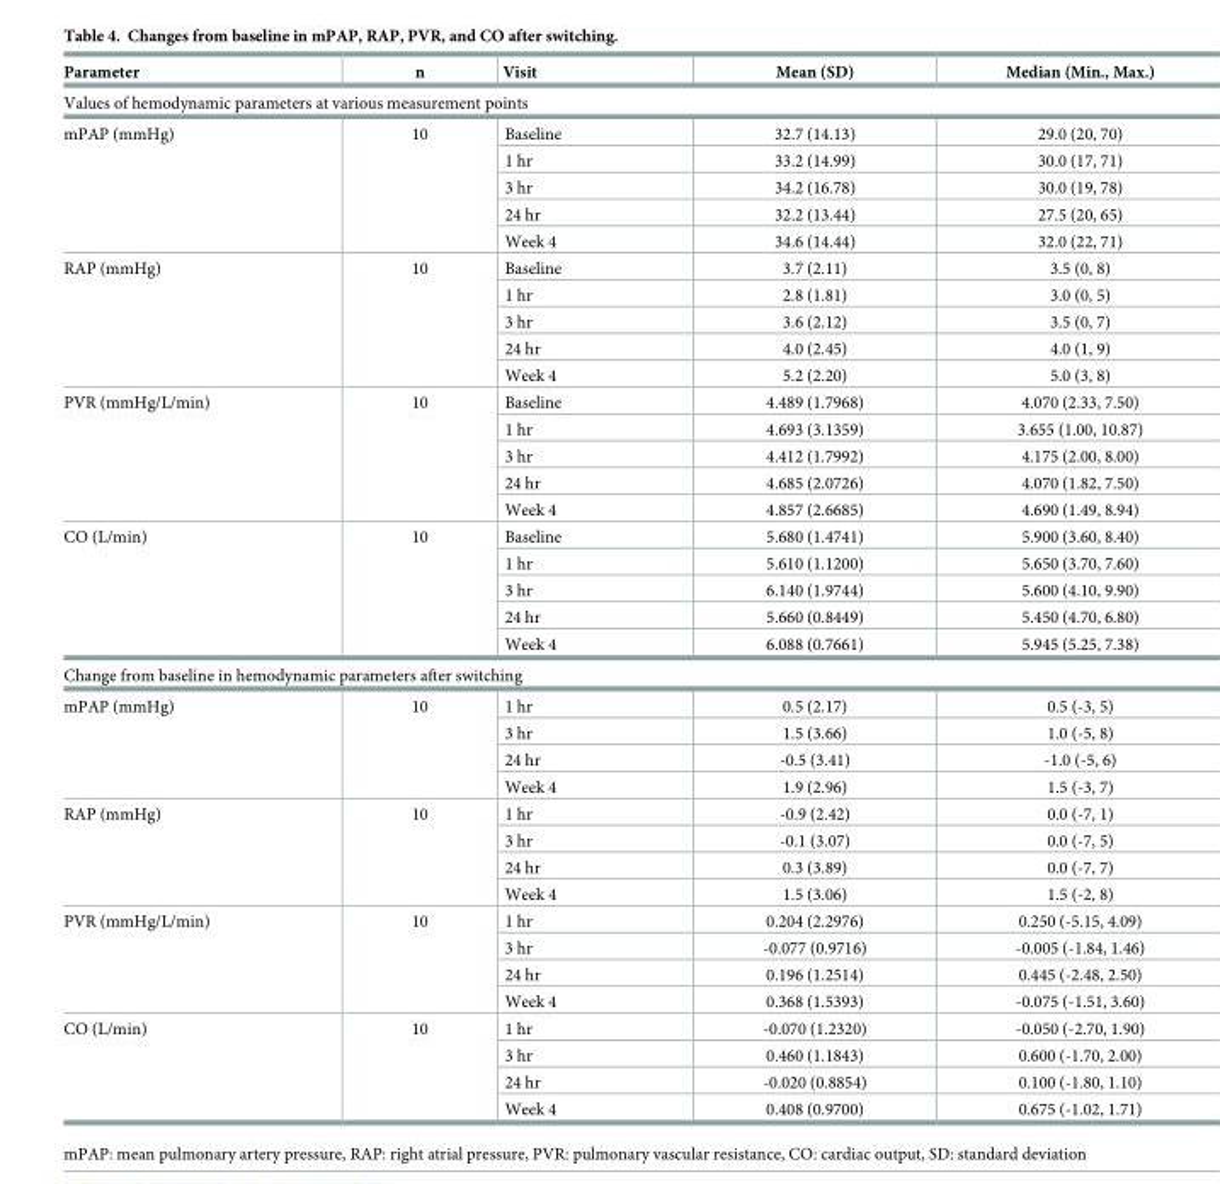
<table><thead><tr><td>Parameter</td><td>n</td><td>Visit</td><td>Mean (SD)</td><td>Median (Min., Max.)</td></tr></thead><tbody><tr><td colspan="5">Values of hemodynamic parameters at various measurement points</td></tr><tr><td rowspan="5">mPAP (mmHg)</td><td rowspan="5">10</td><td>Baseline</td><td>32.7 (14.13)</td><td>29.0 (20, 70)</td></tr><tr><td>1 hr</td><td>33.2 (14.99)</td><td>30.0 (17, 71)</td></tr><tr><td>3 hr</td><td>34.2 (16.78)</td><td>30.0 (19, 78)</td></tr><tr><td>24 hr</td><td>32.2 (13.44)</td><td>27.5 (20, 65)</td></tr><tr><td>Week 4</td><td>34.6 (14.44)</td><td>32.0 (22, 71)</td></tr><tr><td rowspan="5">RAP (mmHg)</td><td rowspan="5">10</td><td>Baseline</td><td>3.7 (2.11)</td><td>3.5 (0, 8)</td></tr><tr><td>1 hr</td><td>2.8 (1.81)</td><td>3.0 (0, 5)</td></tr><tr><td>3 hr</td><td>3.6 (2.12)</td><td>3.5 (0, 7)</td></tr><tr><td>24 hr</td><td>4.0 (2.45)</td><td>4.0 (1, 9)</td></tr><tr><td>Week 4</td><td>5.2 (2.20)</td><td>5.0 (3, 8)</td></tr><tr><td rowspan="5">PVR (mmHg/L/min)</td><td rowspan="5">10</td><td>Baseline</td><td>4.489 (1.7968)</td><td>4.070 (2.33, 7.50)</td></tr><tr><td>1 hr</td><td>4.693 (3.1359)</td><td>3.655 (1.00, 10.87)</td></tr><tr><td>3 hr</td><td>4.412 (1.7992)</td><td>4.175 (2.00, 8.00)</td></tr><tr><td>24 hr</td><td>4.685 (2.0726)</td><td>4.070 (1.82, 7.50)</td></tr><tr><td>Week 4</td><td>4.857 (2.6685)</td><td>4.690 (1.49, 8.94)</td></tr><tr><td rowspan="5">CO (L/min)</td><td rowspan="5">10</td><td>Baseline</td><td>5.680 (1.4741)</td><td>5.900 (3.60, 8.40)</td></tr><tr><td>1 hr</td><td>5.610 (1.1200)</td><td>5.650 (3.70, 7.60)</td></tr><tr><td>3 hr</td><td>6.140 (1.9744)</td><td>5.600 (4.10, 9.90)</td></tr><tr><td>24 hr</td><td>5.660 (0.8449)</td><td>5.450 (4.70, 6.80)</td></tr><tr><td>Week 4</td><td>6.088 (0.7661)</td><td>5.945 (5.25, 7.38)</td></tr><tr><td colspan="5">Change from baseline in hemodynamic parameters after switching</td></tr><tr><td rowspan="4">mPAP (mmHg)</td><td rowspan="4">10</td><td>1 hr</td><td>0.5 (2.17)</td><td>0.5 (-3, 5)</td></tr><tr><td>3 hr</td><td>1.5 (3.66)</td><td>1.0 (-5, 8)</td></tr><tr><td>24 hr</td><td>-0.5 (3.41)</td><td>-1.0 (-5, 6)</td></tr><tr><td>Week 4</td><td>1.9 (2.96)</td><td>1.5 (-3, 7)</td></tr><tr><td rowspan="4">RAP (mmHg)</td><td rowspan="4">10</td><td>1 hr</td><td>-0.9 (2.42)</td><td>0.0 (-7, 1)</td></tr><tr><td>3 hr</td><td>-0.1 (3.07)</td><td>0.0 (-7, 5)</td></tr><tr><td>24 hr</td><td>0.3 (3.89)</td><td>0.0 (-7, 7)</td></tr><tr><td>Week 4</td><td>1.5 (3.06)</td><td>1.5 (-2, 8)</td></tr><tr><td rowspan="4">PVR (mmHg/L/min)</td><td rowspan="4">10</td><td>1 hr</td><td>0.204 (2.2976)</td><td>0.250 (-5.15, 4.09)</td></tr><tr><td>3 hr</td><td>-0.077 (0.9716)</td><td>-0.005 (-1.84, 1.46)</td></tr><tr><td>24 hr</td><td>0.196 (1.2514)</td><td>0.445 (-2.48, 2.50)</td></tr><tr><td>Week 4</td><td>0.368 (1.5393)</td><td>-0.075 (-1.51, 3.60)</td></tr><tr><td rowspan="4">CO (L/min)</td><td rowspan="4">10</td><td>1 hr</td><td>-0.070 (1.2320)</td><td>-0.050 (-2.70, 1.90)</td></tr><tr><td>3 hr</td><td>0.460 (1.1843)</td><td>0.600 (-1.70, 2.00)</td></tr><tr><td>24 hr</td><td>-0.020 (0.8854)</td><td>0.100 (-1.80, 1.10)</td></tr><tr><td>Week 4</td><td>0.408 (0.9700)</td><td>0.675 (-1.02, 1.71)</td></tr></tbody></table>